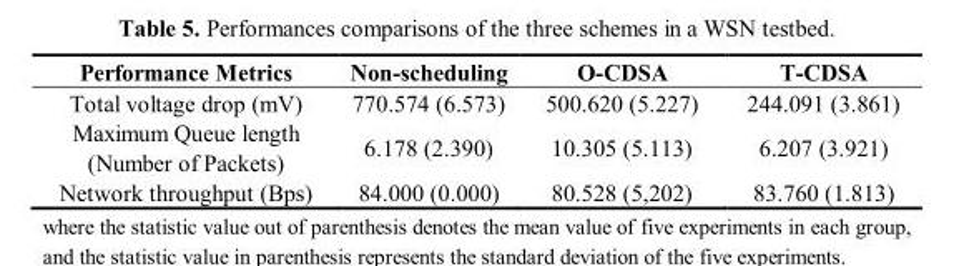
<table><thead><tr><td>Performance Metrics</td><td>Non-scheduling</td><td>O-CDSA</td><td>T-CDSA</td></tr></thead><tbody><tr><td>Total voltage drop (mV)</td><td>770.574 (6.573)</td><td>500.620 (5.227)</td><td>244.091 (3.861)</td></tr><tr><td>Maximum Queue length (Number of Packets)</td><td>6.178 (2.390)</td><td>10.305 (5.113)</td><td>6.207 (3.921)</td></tr><tr><td>Network throughput (Bps)</td><td>84.000 (0.000)</td><td>80.528 (5,202)</td><td>83.760 (1.813)</td></tr></tbody></table>